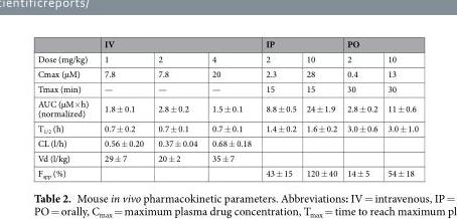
<table><thead><tr><td rowspan="2">Dose (mg/kg)</td><td colspan="3">IV</td><td colspan="2">IP</td><td colspan="2">PO</td></tr><tr><td>1</td><td>2</td><td>4</td><td>2</td><td>10</td><td>2</td><td>10</td></tr></thead><tbody><tr><td>Cmax (µM)</td><td>7.8</td><td>7.8</td><td>20</td><td>2.3</td><td>28</td><td>0.4</td><td>13</td></tr><tr><td>Tmax (min)</td><td>—</td><td>—</td><td>—</td><td>15</td><td>15</td><td>30</td><td>30</td></tr><tr><td>AUC (µM×h) (normalized)</td><td>1.8 ± 0.1</td><td>2.8 ± 0.2</td><td>1.5 ± 0.1</td><td>8.8 ± 0.5</td><td>24 ± 1.9</td><td>2.8 ± 0.2</td><td>11 ± 0.6</td></tr><tr><td>T<sub>1/2</sub> (h)</td><td>0.7 ± 0.2</td><td>0.7 ± 0.1</td><td>0.7 ± 0.1</td><td>1.4 ± 0.2</td><td>1.6 ± 0.2</td><td>3.0 ± 0.6</td><td>3.0 ± 1.0</td></tr><tr><td>CL (l/h)</td><td>0.56 ± 0.20</td><td>0.37 ± 0.04</td><td>0.68 ± 0.18</td><td></td><td></td><td></td><td></td></tr><tr><td>Vd (l/kg)</td><td>29 ± 7</td><td>20 ± 2</td><td>35 ± 7</td><td></td><td></td><td></td><td></td></tr><tr><td>F<sub>app</sub> (%)</td><td></td><td></td><td></td><td>43 ± 15</td><td>120 ± 40</td><td>14 ± 5</td><td>54 ± 18</td></tr></tbody></table>